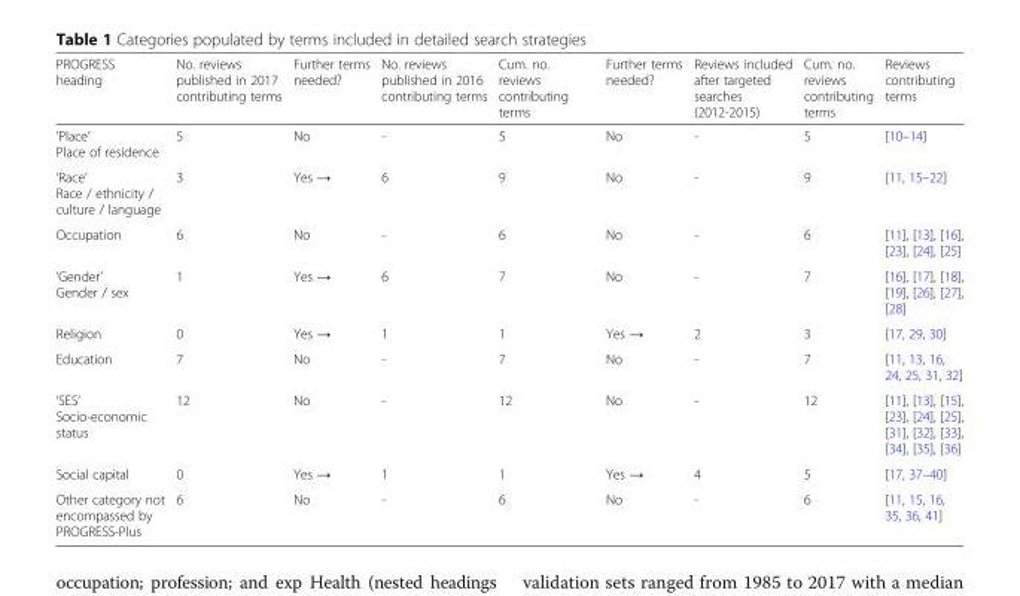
<table><thead><tr><td>PROGRESS heading</td><td>No. reviews published in 2017 contributing terms</td><td>Further terms needed?</td><td>No. reviews published in 2016 contributing terms</td><td>Cum. no. reviews contributing terms</td><td>Further terms needed?</td><td>Reviews included after targeted searches (2012-2015)</td><td>Cum. no. reviews contributing terms</td><td>Reviews contributing terms</td></tr></thead><tbody><tr><td>‘Place’ Place of residence</td><td>5</td><td>No</td><td>-</td><td>5</td><td>No</td><td>-</td><td>5</td><td>[10–14]</td></tr><tr><td>‘Race’ Race / ethnicity / culture / language</td><td>3</td><td>Yes →</td><td>6</td><td>9</td><td>No</td><td>-</td><td>9</td><td>[11, 15–22]</td></tr><tr><td>Occupation</td><td>6</td><td>No</td><td>-</td><td>6</td><td>No</td><td>-</td><td>6</td><td>[11], [13], [16], [23], [24], [25]</td></tr><tr><td>‘Gender’ Gender / sex</td><td>1</td><td>Yes →</td><td>6</td><td>7</td><td>No</td><td>-</td><td>7</td><td>[16], [17], [18], [19], [26], [27], [28]</td></tr><tr><td>Religion</td><td>0</td><td>Yes →</td><td>1</td><td>1</td><td>Yes →</td><td>2</td><td>3</td><td>[17, 29, 30]</td></tr><tr><td>Education</td><td>7</td><td>No</td><td>-</td><td>7</td><td>No</td><td>-</td><td>7</td><td>[11, 13, 16, 24, 25, 31, 32]</td></tr><tr><td>‘SES’ Socio-economic status</td><td>12</td><td>No</td><td>-</td><td>12</td><td>No</td><td>-</td><td>12</td><td>[11], [13], [15], [23], [24], [25], [31], [32], [33], [34], [35], [36]</td></tr><tr><td>Social capital</td><td>0</td><td>Yes →</td><td>1</td><td>1</td><td>Yes →</td><td>4</td><td>5</td><td>[17, 37–40]</td></tr><tr><td>Other category not encompassed by PROGRESS-Plus</td><td>6</td><td>No</td><td>-</td><td>6</td><td>No</td><td>-</td><td>6</td><td>[11, 15, 16, 35, 36, 41]</td></tr></tbody></table>